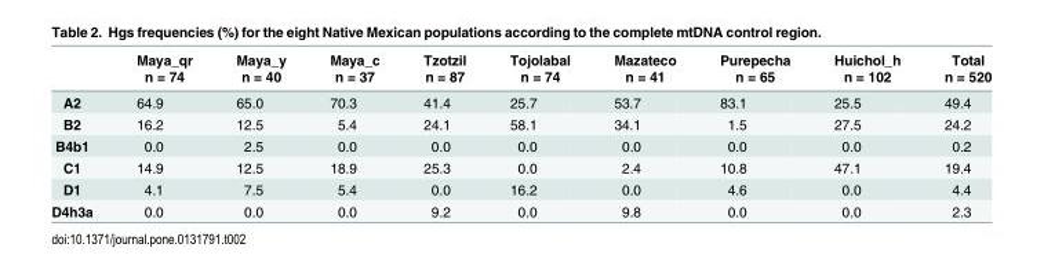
<table><thead><tr><td rowspan="2"></td><td rowspan="2">Maya_qr n = 74</td><td rowspan="2">Maya_y n = 40</td><td rowspan="2">Maya_c n = 37</td><td rowspan="2">Tzotzil n = 87</td><td rowspan="2">Tojolabal n = 74</td><td rowspan="2">Mazateco n = 41</td><td rowspan="2">Purepecha n = 65</td><td rowspan="2">Huichol_h n = 102</td><td rowspan="2">Total n = 520</td></tr><tr></tr></thead><tbody><tr><td>A2</td><td>64.9</td><td>65.0</td><td>70.3</td><td>41.4</td><td>25.7</td><td>53.7</td><td>83.1</td><td>25.5</td><td>49.4</td></tr><tr><td>B2</td><td>16.2</td><td>12.5</td><td>5.4</td><td>24.1</td><td>58.1</td><td>34.1</td><td>1.5</td><td>27.5</td><td>24.2</td></tr><tr><td>B4b1</td><td>0.0</td><td>2.5</td><td>0.0</td><td>0.0</td><td>0.0</td><td>0.0</td><td>0.0</td><td>0.0</td><td>0.2</td></tr><tr><td>C1</td><td>14.9</td><td>12.5</td><td>18.9</td><td>25.3</td><td>0.0</td><td>2.4</td><td>10.8</td><td>47.1</td><td>19.4</td></tr><tr><td>D1</td><td>4.1</td><td>7.5</td><td>5.4</td><td>0.0</td><td>16.2</td><td>0.0</td><td>4.6</td><td>0.0</td><td>4.4</td></tr><tr><td>D4h3a</td><td>0.0</td><td>0.0</td><td>0.0</td><td>9.2</td><td>0.0</td><td>9.8</td><td>0.0</td><td>0.0</td><td>2.3</td></tr></tbody></table>